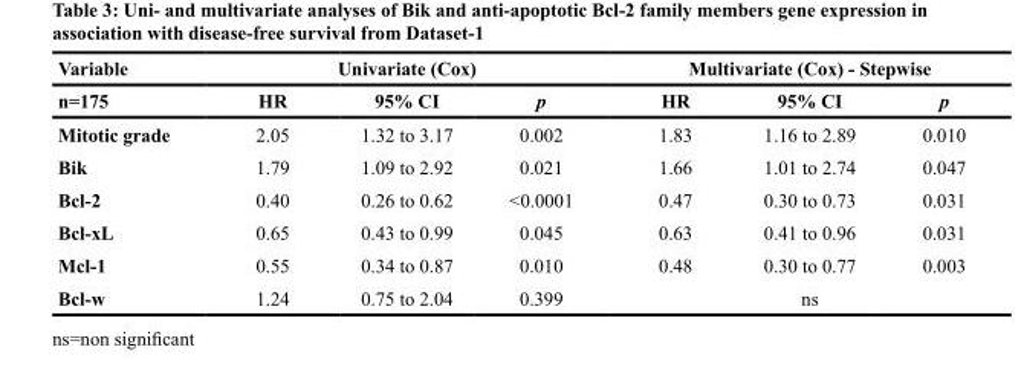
<table><thead><tr><td rowspan="2">Variable n=175</td><td colspan="3">Univariate (Cox)</td><td colspan="3">Multivariate (Cox) - Stepwise</td></tr><tr><td>HR</td><td>95% CI</td><td>p</td><td>HR</td><td>95% CI</td><td>p</td></tr></thead><tbody><tr><td>Mitotic grade</td><td>2.05</td><td>1.32 to 3.17</td><td>0.002</td><td>1.83</td><td>1.16 to 2.89</td><td>0.010</td></tr><tr><td>Bik</td><td>1.79</td><td>1.09 to 2.92</td><td>0.021</td><td>1.66</td><td>1.01 to 2.74</td><td>0.047</td></tr><tr><td>Bcl-2</td><td>0.40</td><td>0.26 to 0.62</td><td>&lt;0.0001</td><td>0.47</td><td>0.30 to 0.73</td><td>0.031</td></tr><tr><td>Bcl-xL</td><td>0.65</td><td>0.43 to 0.99</td><td>0.045</td><td>0.63</td><td>0.41 to 0.96</td><td>0.031</td></tr><tr><td>Mcl-1</td><td>0.55</td><td>0.34 to 0.87</td><td>0.010</td><td>0.48</td><td>0.30 to 0.77</td><td>0.003</td></tr><tr><td>Bcl-w</td><td>1.24</td><td>0.75 to 2.04</td><td>0.399</td><td></td><td>ns</td><td></td></tr></tbody></table>